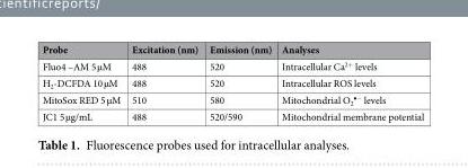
<table><thead><tr><td>Probe</td><td>Excitation (nm)</td><td>Emission (nm)</td><td>Analyses</td></tr></thead><tbody><tr><td>Fluo4 –AM 5 µM</td><td>488</td><td>520</td><td>Intracellular Ca<sup>2+</sup> levels</td></tr><tr><td>H<sub>2</sub>-DCFDA 10 µM</td><td>488</td><td>520</td><td>Intracellular ROS levels</td></tr><tr><td>MitoSox RED 5 µM</td><td>510</td><td>580</td><td>Mitochondrial O<sub>2</sub> <sup>•−</sup> levels</td></tr><tr><td>JC1 5 µg/mL</td><td>488</td><td>520/590</td><td>Mitochondrial membrane potential</td></tr></tbody></table>